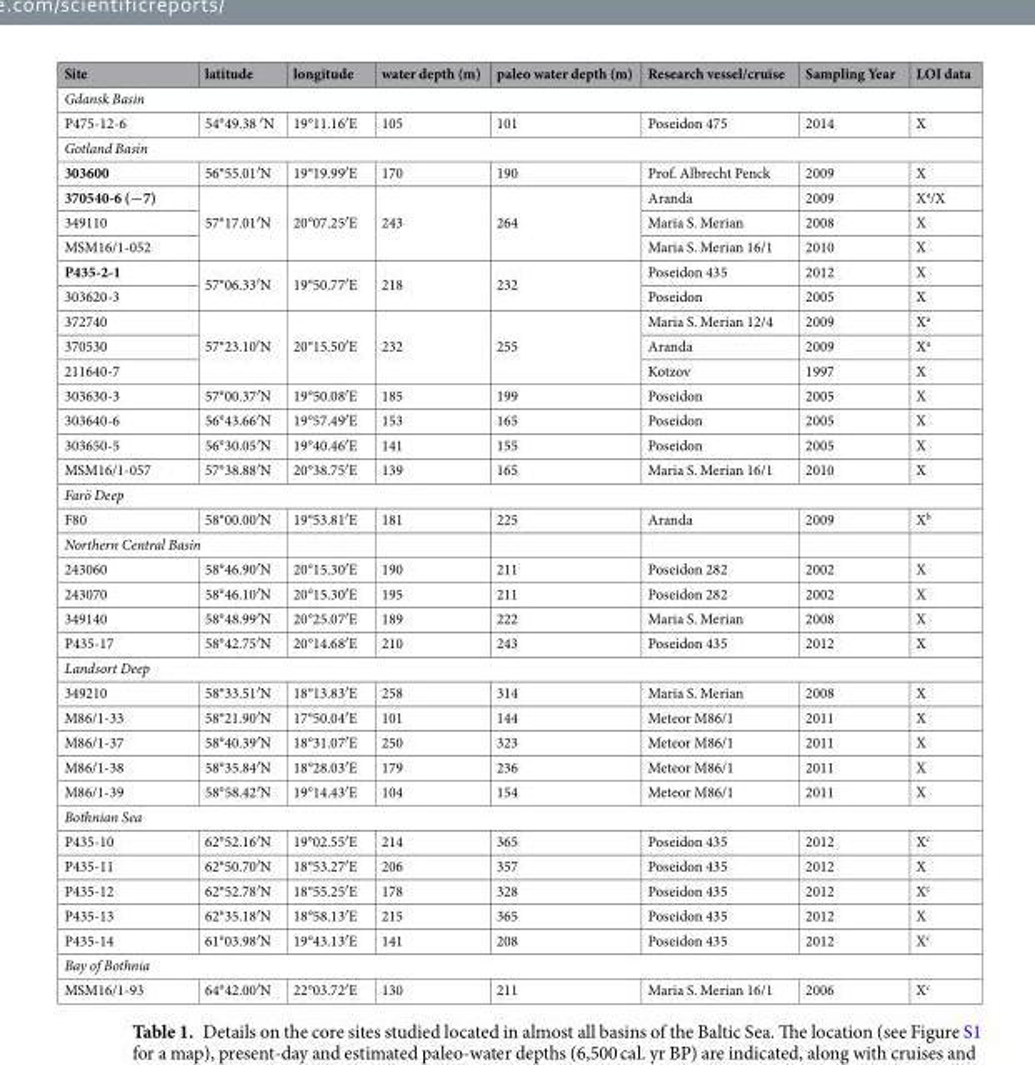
<table><thead><tr><td>Site</td><td>latitude</td><td>longitude</td><td>water depth (m)</td><td>paleo water depth (m)</td><td>Research vessel/cruise</td><td>Sampling Year</td><td>LOI data</td></tr></thead><tbody><tr><td colspan="8">Gdansk Basin</td></tr><tr><td>P475-12-6</td><td>54°49.38 ′N</td><td>19°11.16′E</td><td>105</td><td>101</td><td>Poseidon 475</td><td>2014</td><td>X</td></tr><tr><td colspan="8">Gotland Basin</td></tr><tr><td>303600</td><td>56°55.01′N</td><td>19°19.99′E</td><td>170</td><td>190</td><td>Prof. Albrecht Penck</td><td>2009</td><td>X</td></tr><tr><td>370540-6 (−7)</td><td rowspan="3">57°17.01′N</td><td rowspan="3">20°07.25′E</td><td rowspan="3">243</td><td rowspan="3">264</td><td>Aranda</td><td>2009</td><td>X<sup>a</sup>/X</td></tr><tr><td>349110</td><td>Maria S. Merian</td><td>2008</td><td>X</td></tr><tr><td>MSM16/1-052</td><td>Maria S. Merian 16/1</td><td>2010</td><td>X</td></tr><tr><td>P435-2-1</td><td rowspan="2">57°06.33′N</td><td rowspan="2">19°50.77′E</td><td rowspan="2">218</td><td rowspan="2">232</td><td>Poseidon 435</td><td>2012</td><td>X</td></tr><tr><td>303620-3</td><td>Poseidon</td><td>2005</td><td>X</td></tr><tr><td>372740</td><td rowspan="3">57°23.10′N</td><td rowspan="3">20°15.50′E</td><td rowspan="3">232</td><td rowspan="3">255</td><td>Maria S. Merian 12/4</td><td>2009</td><td>X<sup>a</sup></td></tr><tr><td>370530</td><td>Aranda</td><td>2009</td><td>X<sup>a</sup></td></tr><tr><td>211640-7</td><td>Kotzov</td><td>1997</td><td>X</td></tr><tr><td>303630-3</td><td>57°00.37′N</td><td>19°50.08′E</td><td>185</td><td>199</td><td>Poseidon</td><td>2005</td><td>X</td></tr><tr><td>303640-6</td><td>56°43.66′N</td><td>19°57.49′E</td><td>153</td><td>165</td><td>Poseidon</td><td>2005</td><td>X</td></tr><tr><td>303650-5</td><td>56°30.05′N</td><td>19°40.46′E</td><td>141</td><td>155</td><td>Poseidon</td><td>2005</td><td>X</td></tr><tr><td>MSM16/1-057</td><td>57°38.88′N</td><td>20°38.75′E</td><td>139</td><td>165</td><td>Maria S. Merian 16/1</td><td>2010</td><td>X</td></tr><tr><td colspan="8">Farö Deep</td></tr><tr><td>F80</td><td>58°00.00′N</td><td>19°53.81′E</td><td>181</td><td>225</td><td>Aranda</td><td>2009</td><td>X<sup>b</sup></td></tr><tr><td colspan="8">Northern Central Basin</td></tr><tr><td>243060</td><td>58°46.90′N</td><td>20°15.30′E</td><td>190</td><td>211</td><td>Poseidon 282</td><td>2002</td><td>X</td></tr><tr><td>243070</td><td>58°46.10′N</td><td>20°15.30′E</td><td>195</td><td>211</td><td>Poseidon 282</td><td>2002</td><td>X</td></tr><tr><td>349140</td><td>58°48.99′N</td><td>20°25.07′E</td><td>189</td><td>222</td><td>Maria S. Merian</td><td>2008</td><td>X</td></tr><tr><td>P435-17</td><td>58°42.75′N</td><td>20°14.68′E</td><td>210</td><td>243</td><td>Poseidon 435</td><td>2012</td><td>X</td></tr><tr><td colspan="8">Landsort Deep</td></tr><tr><td>349210</td><td>58°33.51′N</td><td>18°13.83′E</td><td>258</td><td>314</td><td>Maria S. Merian</td><td>2008</td><td>X</td></tr><tr><td>M86/1-33</td><td>58°21.90′N</td><td>17°50.04′E</td><td>101</td><td>144</td><td>Meteor M86/1</td><td>2011</td><td>X</td></tr><tr><td>M86/1-37</td><td>58°40.39′N</td><td>18°31.07′E</td><td>250</td><td>323</td><td>Meteor M86/1</td><td>2011</td><td>X</td></tr><tr><td>M86/1-38</td><td>58°35.84′N</td><td>18°28.03′E</td><td>179</td><td>236</td><td>Meteor M86/1</td><td>2011</td><td>X</td></tr><tr><td>M86/1-39</td><td>58°58.42′N</td><td>19°14.43′E</td><td>104</td><td>154</td><td>Meteor M86/1</td><td>2011</td><td>X</td></tr><tr><td colspan="8">Bothnian Sea</td></tr><tr><td>P435-10</td><td>62°52.16′N</td><td>19°02.55′E</td><td>214</td><td>365</td><td>Poseidon 435</td><td>2012</td><td>X<sup>c</sup></td></tr><tr><td>P435-11</td><td>62°50.70′N</td><td>18°53.27′E</td><td>206</td><td>357</td><td>Poseidon 435</td><td>2012</td><td>X</td></tr><tr><td>P435-12</td><td>62°52.78′N</td><td>18°55.25′E</td><td>178</td><td>328</td><td>Poseidon 435</td><td>2012</td><td>X<sup>c</sup></td></tr><tr><td>P435-13</td><td>62°35.18′N</td><td>18°58.13′E</td><td>215</td><td>365</td><td>Poseidon 435</td><td>2012</td><td>X</td></tr><tr><td>P435-14</td><td>61°03.98′N</td><td>19°43.13′E</td><td>141</td><td>208</td><td>Poseidon 435</td><td>2012</td><td>X<sup>c</sup></td></tr><tr><td colspan="8">Bay of Bothnia</td></tr><tr><td>MSM16/1-93</td><td>64°42.00′N</td><td>22°03.72′E</td><td>130</td><td>211</td><td>Maria S. Merian 16/1</td><td>2006</td><td>X<sup>c</sup></td></tr></tbody></table>